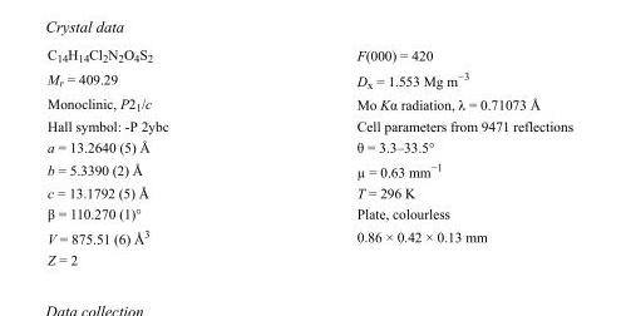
<table><tbody><tr><td>C<sub>14</sub>H<sub>14</sub>Cl<sub>2</sub>N<sub>2</sub>O<sub>4</sub>S<sub>2</sub></td><td>F(000) = 420</td></tr><tr><td>M<sub>r</sub> = 409.29</td><td>D<sub>x</sub> = 1.553 Mg m<sup>−3</sup></td></tr><tr><td>Monoclinic, P2<sub>1</sub>/c</td><td>Mo Kα radiation, λ = 0.71073 Å</td></tr><tr><td>Hall symbol: -P 2ybc</td><td>Cell parameters from 9471 reflections</td></tr><tr><td>a = 13.2640 (5) Å</td><td>θ = 3.3–33.5°</td></tr><tr><td>b = 5.3390 (2) Å</td><td>µ = 0.63 mm<sup>−1</sup></td></tr><tr><td>c = 13.1792 (5) Å</td><td>T = 296 K</td></tr><tr><td>β = 110.270 (1)°</td><td>Plate, colourless</td></tr><tr><td>V = 875.51 (6) Å<sup>3</sup></td><td>0.86 × 0.42 × 0.13 mm</td></tr><tr><td>Z = 2</td><td></td></tr></tbody></table>